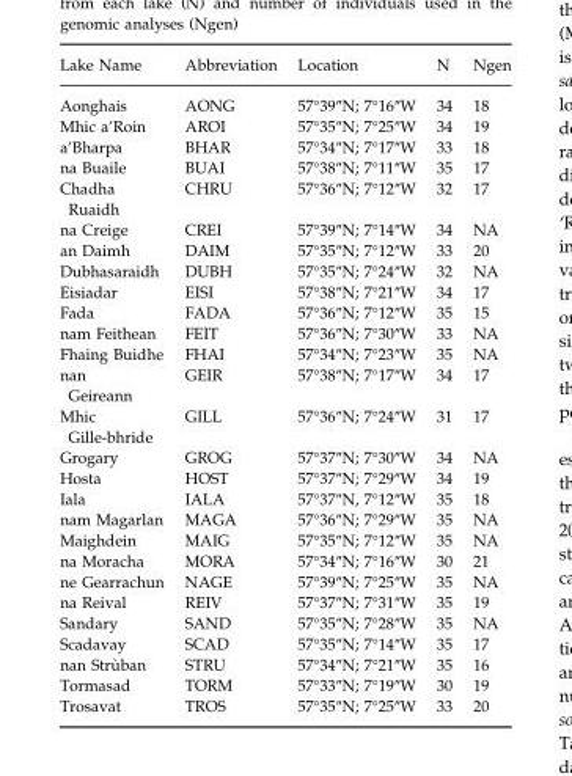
<table><thead><tr><td>Lake Name</td><td>Abbreviation</td><td>Location</td><td>N</td><td>Ngen</td></tr></thead><tbody><tr><td>Aonghais</td><td>AONG</td><td>57°39″N; 7°16″W</td><td>34</td><td>18</td></tr><tr><td>Mhic a’Roin</td><td>AROI</td><td>57°35″N; 7°25″W</td><td>34</td><td>19</td></tr><tr><td>a’Bharpa</td><td>BHAR</td><td>57°34″N; 7°17″W</td><td>33</td><td>18</td></tr><tr><td>na Buaile</td><td>BUAI</td><td>57°38″N; 7°11″W</td><td>35</td><td>17</td></tr><tr><td>Chadha Ruaidh</td><td>CHRU</td><td>57°36″N; 7°12″W</td><td>32</td><td>17</td></tr><tr><td>na Creige</td><td>CREI</td><td>57°39″N; 7°14″W</td><td>34</td><td>NA</td></tr><tr><td>an Daimh</td><td>DAIM</td><td>57°35″N; 7°12″W</td><td>33</td><td>20</td></tr><tr><td>Dubhasaraidh</td><td>DUBH</td><td>57°35″N; 7°24″W</td><td>32</td><td>NA</td></tr><tr><td>Eisiadar</td><td>EISI</td><td>57°38″N; 7°21″W</td><td>34</td><td>17</td></tr><tr><td>Fada</td><td>FADA</td><td>57°36″N; 7°12″W</td><td>35</td><td>15</td></tr><tr><td>nam Feithean</td><td>FEIT</td><td>57°36″N; 7°30″W</td><td>33</td><td>NA</td></tr><tr><td>Fhaing Buidhe</td><td>FHAI</td><td>57°34″N; 7°23″W</td><td>35</td><td>NA</td></tr><tr><td>nan Geireann</td><td>GEIR</td><td>57°38″N; 7°17″W</td><td>34</td><td>17</td></tr><tr><td>Mhic Gille-bhride</td><td>GILL</td><td>57°36″N; 7°24″W</td><td>31</td><td>17</td></tr><tr><td>Grogary</td><td>GROG</td><td>57°37″N; 7°30″W</td><td>34</td><td>NA</td></tr><tr><td>Hosta</td><td>HOST</td><td>57°37″N; 7°29″W</td><td>34</td><td>19</td></tr><tr><td>Iala</td><td>IALA</td><td>57°37″N, 7°12″W</td><td>35</td><td>18</td></tr><tr><td>nam Magarlan</td><td>MAGA</td><td>57°36″N; 7°29″W</td><td>35</td><td>NA</td></tr><tr><td>Maighdein</td><td>MAIG</td><td>57°35″N; 7°12″W</td><td>35</td><td>NA</td></tr><tr><td>na Moracha</td><td>MORA</td><td>57°34″N; 7°16″W</td><td>30</td><td>21</td></tr><tr><td>ne Gearrachun</td><td>NAGE</td><td>57°39″N; 7°25″W</td><td>35</td><td>NA</td></tr><tr><td>na Reival</td><td>REIV</td><td>57°37″N; 7°31″W</td><td>35</td><td>19</td></tr><tr><td>Sandary</td><td>SAND</td><td>57°35″N; 7°28″W</td><td>35</td><td>NA</td></tr><tr><td>Scadavay</td><td>SCAD</td><td>57°35″N; 7°14″W</td><td>35</td><td>17</td></tr><tr><td>nan Str�uban</td><td>STRU</td><td>57°34″N; 7°21″W</td><td>35</td><td>16</td></tr><tr><td>Tormasad</td><td>TORM</td><td>57°33″N; 7°19″W</td><td>30</td><td>19</td></tr><tr><td>Trosavat</td><td>TROS</td><td>57°35″N; 7°25″W</td><td>33</td><td>20</td></tr></tbody></table>